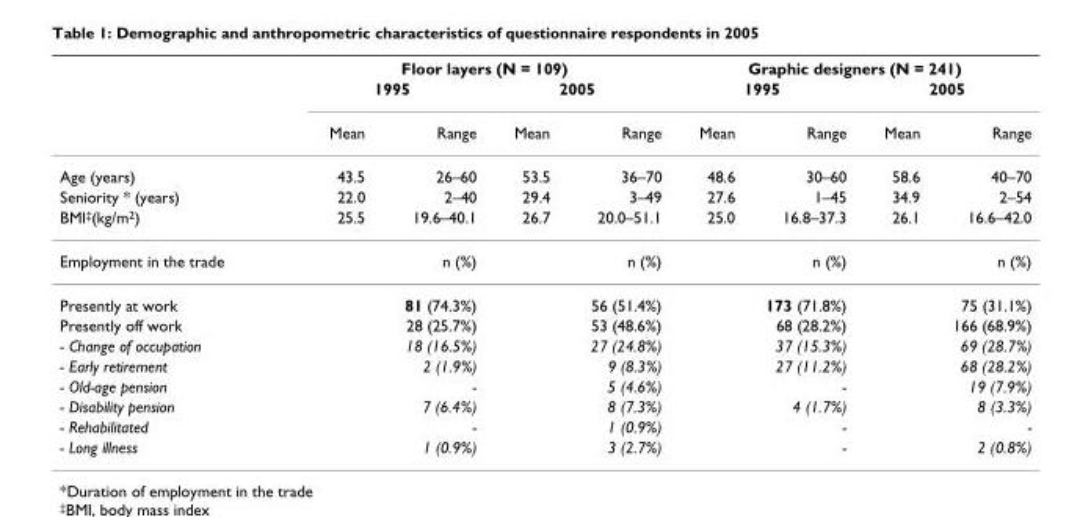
<table><thead><tr><td rowspan="3"></td><td colspan="4">Floor layers (N = 109)</td><td colspan="4">Graphic designers (N = 241)</td></tr><tr><td colspan="2">1995</td><td colspan="2">2005</td><td colspan="2">1995</td><td colspan="2">2005</td></tr><tr><td>Mean</td><td>Range</td><td>Mean</td><td>Range</td><td>Mean</td><td>Range</td><td>Mean</td><td>Range</td></tr></thead><tbody><tr><td>Age (years)</td><td>43.5</td><td>26–60</td><td>53.5</td><td>36–70</td><td>48.6</td><td>30–60</td><td>58.6</td><td>40–70</td></tr><tr><td>Seniority * (years)</td><td>22.0</td><td>2–40</td><td>29.4</td><td>3–49</td><td>27.6</td><td>1–45</td><td>34.9</td><td>2–54</td></tr><tr><td>BMI<sup>‡</sup>(kg/m<sup>2</sup>)</td><td>25.5</td><td>19.6–40.1</td><td>26.7</td><td>20.0–51.1</td><td>25.0</td><td>16.8–37.3</td><td>26.1</td><td>16.6–42.0</td></tr><tr><td>Employment in the trade</td><td colspan="2">n (%)</td><td colspan="2">n (%)</td><td colspan="2">n (%)</td><td colspan="2">n (%)</td></tr><tr><td>Presently at work</td><td colspan="2">81 (74.3%)</td><td colspan="2">56 (51.4%)</td><td colspan="2">173 (71.8%)</td><td colspan="2">75 (31.1%)</td></tr><tr><td>Presently off work</td><td colspan="2">28 (25.7%)</td><td colspan="2">53 (48.6%)</td><td colspan="2">68 (28.2%)</td><td colspan="2">166 (68.9%)</td></tr><tr><td>- Change of occupation</td><td colspan="2">18 (16.5%)</td><td colspan="2">27 (24.8%)</td><td colspan="2">37 (15.3%)</td><td colspan="2">69 (28.7%)</td></tr><tr><td>- Early retirement</td><td colspan="2">2 (1.9%)</td><td colspan="2">9 (8.3%)</td><td colspan="2">27 (11.2%)</td><td colspan="2">68 (28.2%)</td></tr><tr><td>- Old-age pension</td><td colspan="2">-</td><td colspan="2">5 (4.6%)</td><td colspan="2">-</td><td colspan="2">19 (7.9%)</td></tr><tr><td>- Disability pension</td><td colspan="2">7 (6.4%)</td><td colspan="2">8 (7.3%)</td><td colspan="2">4 (1.7%)</td><td colspan="2">8 (3.3%)</td></tr><tr><td>- Rehabilitated</td><td colspan="2">-</td><td colspan="2">1 (0.9%)</td><td colspan="2">-</td><td colspan="2">-</td></tr><tr><td>- Long illness</td><td colspan="2">1 (0.9%)</td><td colspan="2">3 (2.7%)</td><td colspan="2">-</td><td colspan="2">2 (0.8%)</td></tr></tbody></table>